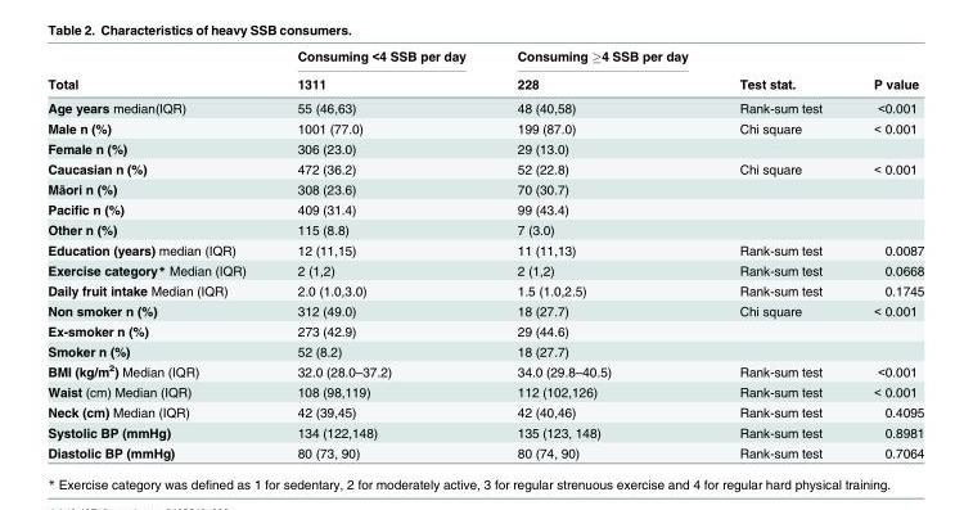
<table><thead><tr><td rowspan="2">Total</td><td rowspan="2">Consuming &lt;4 SSB per day 1311</td><td rowspan="2">Consuming ≥4 SSB per day 228</td><td rowspan="2">Test stat.</td><td rowspan="2">P value</td></tr><tr></tr></thead><tbody><tr><td>Age years median(IQR)</td><td>55 (46,63)</td><td>48 (40,58)</td><td>Rank-sum test</td><td>&lt;0.001</td></tr><tr><td>Male n (%)</td><td>1001 (77.0)</td><td>199 (87.0)</td><td>Chi square</td><td>&lt; 0.001</td></tr><tr><td>Female n (%)</td><td>306 (23.0)</td><td>29 (13.0)</td><td></td><td></td></tr><tr><td>Caucasian n (%)</td><td>472 (36.2)</td><td>52 (22.8)</td><td>Chi square</td><td>&lt; 0.001</td></tr><tr><td>Māori n (%)</td><td>308 (23.6)</td><td>70 (30.7)</td><td></td><td></td></tr><tr><td>Pacific n (%)</td><td>409 (31.4)</td><td>99 (43.4)</td><td></td><td></td></tr><tr><td>Other n (%)</td><td>115 (8.8)</td><td>7 (3.0)</td><td></td><td></td></tr><tr><td>Education (years) median (IQR)</td><td>12 (11,15)</td><td>11 (11,13)</td><td>Rank-sum test</td><td>0.0087</td></tr><tr><td>Exercise category* Median (IQR)</td><td>2 (1,2)</td><td>2 (1,2)</td><td>Rank-sum test</td><td>0.0668</td></tr><tr><td>Daily fruit intake Median (IQR)</td><td>2.0 (1.0,3.0)</td><td>1.5 (1.0,2.5)</td><td>Rank-sum test</td><td>0.1745</td></tr><tr><td>Non smoker n (%)</td><td>312 (49.0)</td><td>18 (27.7)</td><td>Chi square</td><td>&lt; 0.001</td></tr><tr><td>Ex-smoker n (%)</td><td>273 (42.9)</td><td>29 (44.6)</td><td></td><td></td></tr><tr><td>Smoker n (%)</td><td>52 (8.2)</td><td>18 (27.7)</td><td></td><td></td></tr><tr><td>BMI (kg/m<sup>2</sup>) Median (IQR)</td><td>32.0 (28.0–37.2)</td><td>34.0 (29.8–40.5)</td><td>Rank-sum test</td><td>&lt;0.001</td></tr><tr><td>Waist (cm) Median (IQR)</td><td>108 (98,119)</td><td>112 (102,126)</td><td>Rank-sum test</td><td>&lt; 0.001</td></tr><tr><td>Neck (cm) Median (IQR)</td><td>42 (39,45)</td><td>42 (40,46)</td><td>Rank-sum test</td><td>0.4095</td></tr><tr><td>Systolic BP (mmHg)</td><td>134 (122,148)</td><td>135 (123, 148)</td><td>Rank-sum test</td><td>0.8981</td></tr><tr><td>Diastolic BP (mmHg)</td><td>80 (73, 90)</td><td>80 (74, 90)</td><td>Rank-sum test</td><td>0.7064</td></tr></tbody></table>